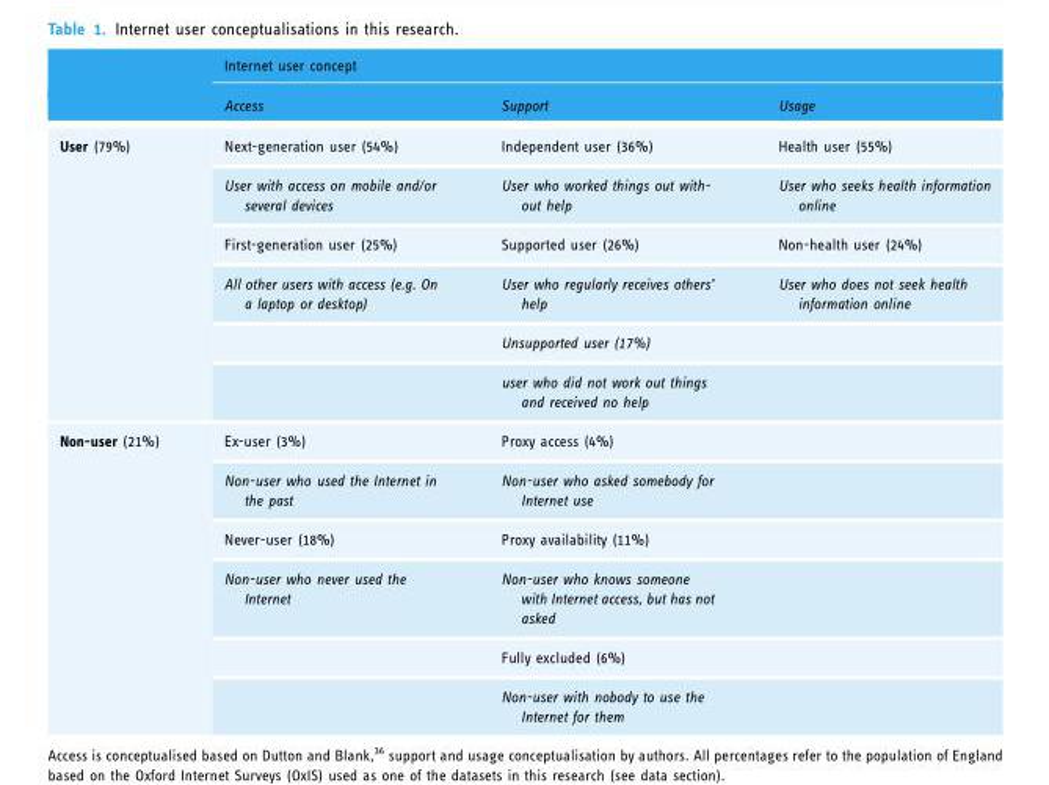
<table><thead><tr><td rowspan="2"></td><td colspan="3">Internet user concept</td></tr><tr><td>Access</td><td>Support</td><td>Usage</td></tr></thead><tbody><tr><td rowspan="6">User (79%)</td><td>Next-generation user (54%)</td><td>Independent user (36%)</td><td>Health user (55%)</td></tr><tr><td>User with access on mobile and/or several devices</td><td>User who worked things out with- out help</td><td>User who seeks health information online</td></tr><tr><td>First-generation user (25%)</td><td>Supported user (26%)</td><td>Non-health user (24%)</td></tr><tr><td>All other users with access (e.g. On a laptop or desktop)</td><td>User who regularly receives others’ help</td><td>User who does not seek health information online</td></tr><tr><td></td><td>Unsupported user (17%)</td><td></td></tr><tr><td></td><td>user who did not work out things and received no help</td><td></td></tr><tr><td rowspan="6">Non-user (21%)</td><td>Ex-user (3%)</td><td>Proxy access (4%)</td><td></td></tr><tr><td>Non-user who used the Internet in the past</td><td>Non-user who asked somebody for Internet use</td><td></td></tr><tr><td>Never-user (18%)</td><td>Proxy availability (11%)</td><td></td></tr><tr><td>Non-user who never used the Internet</td><td>Non-user who knows someone with Internet access, but has not asked</td><td></td></tr><tr><td></td><td>Fully excluded (6%)</td><td></td></tr><tr><td></td><td>Non-user with nobody to use the Internet for them</td><td></td></tr></tbody></table>